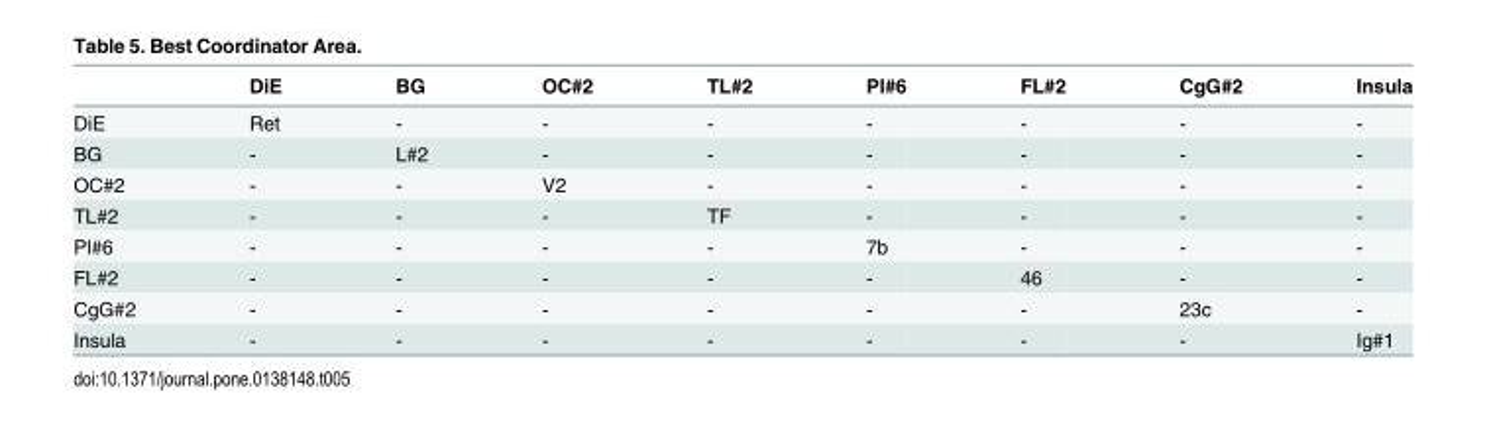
<table><thead><tr><td></td><td>DiE</td><td>BG</td><td>OC#2</td><td>TL#2</td><td>Pl#6</td><td>FL#2</td><td>CgG#2</td><td>Insula</td></tr></thead><tbody><tr><td>DiE</td><td>Ret</td><td>-</td><td>-</td><td>-</td><td>-</td><td>-</td><td>-</td><td>-</td></tr><tr><td>BG</td><td>-</td><td>L#2</td><td>-</td><td>-</td><td>-</td><td>-</td><td>-</td><td>-</td></tr><tr><td>OC#2</td><td>-</td><td>-</td><td>V2</td><td>-</td><td>-</td><td>-</td><td>-</td><td>-</td></tr><tr><td>TL#2</td><td>-</td><td>-</td><td>-</td><td>TF</td><td>-</td><td>-</td><td>-</td><td>-</td></tr><tr><td>Pl#6</td><td>-</td><td>-</td><td>-</td><td>-</td><td>7b</td><td>-</td><td>-</td><td>-</td></tr><tr><td>FL#2</td><td>-</td><td>-</td><td>-</td><td>-</td><td>-</td><td>46</td><td>-</td><td>-</td></tr><tr><td>CgG#2</td><td>-</td><td>-</td><td>-</td><td>-</td><td>-</td><td>-</td><td>23c</td><td>-</td></tr><tr><td>Insula</td><td>-</td><td>-</td><td>-</td><td>-</td><td>-</td><td>-</td><td>-</td><td>Ig#1</td></tr></tbody></table>